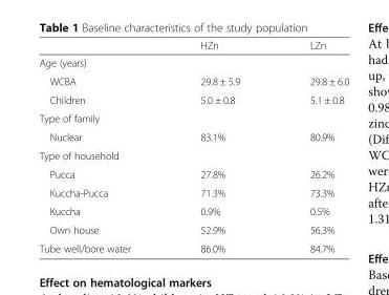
<table><thead><tr><td></td><td>HZn</td><td>LZn</td></tr></thead><tbody><tr><td colspan="3">Age (years)</td></tr><tr><td>WCBA</td><td>29.8 ± 5.9</td><td>29.8 ± 6.0</td></tr><tr><td>Children</td><td>5.0 ± 0.8</td><td>5.1 ± 0.8</td></tr><tr><td colspan="3">Type of family</td></tr><tr><td>Nuclear</td><td>83.1%</td><td>80.9%</td></tr><tr><td colspan="3">Type of household</td></tr><tr><td>Pucca</td><td>27.8%</td><td>26.2%</td></tr><tr><td>Kuccha-Pucca</td><td>71.3%</td><td>73.3%</td></tr><tr><td>Kuccha</td><td>0.9%</td><td>0.5%</td></tr><tr><td>Own house</td><td>52.9%</td><td>56.3%</td></tr><tr><td>Tube well/bore water</td><td>86.0%</td><td>84.7%</td></tr></tbody></table>